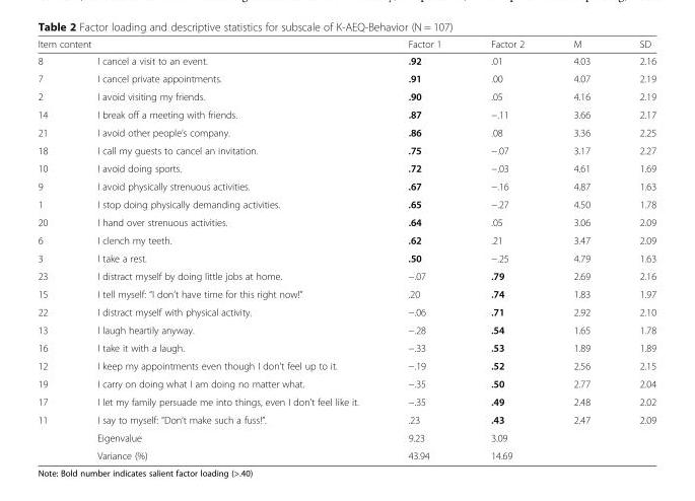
<table><thead><tr><td colspan="2">Item content</td><td rowspan="2">Factor 1 .92</td><td rowspan="2">Factor 2 .01</td><td rowspan="2">M 4.03</td><td rowspan="2">SD 2.16</td></tr><tr><td>8</td><td>I cancel a visit to an event.</td></tr></thead><tbody><tr><td>7</td><td>I cancel private appointments.</td><td>.91</td><td>.00</td><td>4.07</td><td>2.19</td></tr><tr><td>2</td><td>I avoid visiting my friends.</td><td>.90</td><td>.05</td><td>4.16</td><td>2.19</td></tr><tr><td>14</td><td>I break off a meeting with friends.</td><td>.87</td><td>−.11</td><td>3.66</td><td>2.17</td></tr><tr><td>21</td><td>I avoid other people’s company.</td><td>.86</td><td>.08</td><td>3.36</td><td>2.25</td></tr><tr><td>18</td><td>I call my guests to cancel an invitation.</td><td>.75</td><td>−.07</td><td>3.17</td><td>2.27</td></tr><tr><td>10</td><td>I avoid doing sports.</td><td>.72</td><td>−.03</td><td>4.61</td><td>1.69</td></tr><tr><td>9</td><td>I avoid physically strenuous activities.</td><td>.67</td><td>−.16</td><td>4.87</td><td>1.63</td></tr><tr><td>1</td><td>I stop doing physically demanding activities.</td><td>.65</td><td>−.27</td><td>4.50</td><td>1.78</td></tr><tr><td>20</td><td>I hand over strenuous activities.</td><td>.64</td><td>.05</td><td>3.06</td><td>2.09</td></tr><tr><td>6</td><td>I clench my teeth.</td><td>.62</td><td>.21</td><td>3.47</td><td>2.09</td></tr><tr><td>3</td><td>I take a rest.</td><td>.50</td><td>−.25</td><td>4.79</td><td>1.63</td></tr><tr><td>23</td><td>I distract myself by doing little jobs at home.</td><td>−.07</td><td>.79</td><td>2.69</td><td>2.16</td></tr><tr><td>15</td><td>I tell myself: “I don’t have time for this right now!”</td><td>.20</td><td>.74</td><td>1.83</td><td>1.97</td></tr><tr><td>22</td><td>I distract myself with physical activity.</td><td>−.06</td><td>.71</td><td>2.92</td><td>2.10</td></tr><tr><td>13</td><td>I laugh heartily anyway.</td><td>−.28</td><td>.54</td><td>1.65</td><td>1.78</td></tr><tr><td>16</td><td>I take it with a laugh.</td><td>−.33</td><td>.53</td><td>1.89</td><td>1.89</td></tr><tr><td>12</td><td>I keep my appointments even though I don’t feel up to it.</td><td>−.19</td><td>.52</td><td>2.56</td><td>2.15</td></tr><tr><td>19</td><td>I carry on doing what I am doing no matter what.</td><td>−.35</td><td>.50</td><td>2.77</td><td>2.04</td></tr><tr><td>17</td><td>I let my family persuade me into things, even I don’t feel like it.</td><td>−.35</td><td>.49</td><td>2.48</td><td>2.02</td></tr><tr><td rowspan="3">11</td><td>I say to myself: “Don’t make such a fuss!”.</td><td>.23</td><td>.43</td><td>2.47</td><td>2.09</td></tr><tr><td>Eigenvalue</td><td>9.23</td><td>3.09</td><td></td><td></td></tr><tr><td>Variance (%)</td><td>43.94</td><td>14.69</td><td></td><td></td></tr></tbody></table>